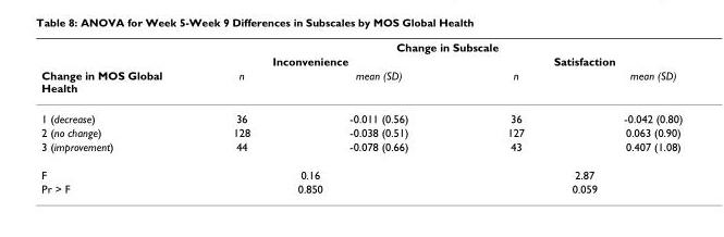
<table><thead><tr><td rowspan="3">Change in MOS Global Health</td><td colspan="4">Change in Subscale</td></tr><tr><td colspan="2">Inconvenience</td><td colspan="2">Satisfaction</td></tr><tr><td>n</td><td>mean (SD)</td><td>n</td><td>mean (SD)</td></tr></thead><tbody><tr><td>1 (decrease)</td><td>36</td><td>-0.011 (0.56)</td><td>36</td><td>-0.042 (0.80)</td></tr><tr><td>2 (no change)</td><td>128</td><td>-0.038 (0.51)</td><td>127</td><td>0.063 (0.90)</td></tr><tr><td>3 (improvement)</td><td>44</td><td>-0.078 (0.66)</td><td>43</td><td>0.407 (1.08)</td></tr><tr><td>F</td><td colspan="2">0.16</td><td colspan="2">2.87</td></tr><tr><td>Pr &gt; F</td><td colspan="2">0.850</td><td colspan="2">0.059</td></tr></tbody></table>